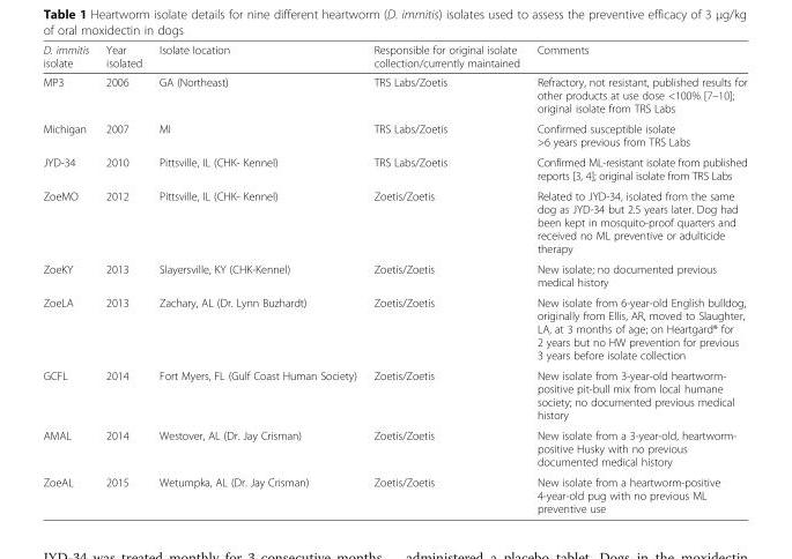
<table><thead><tr><td>D. immitis isolate</td><td>Year isolated</td><td>Isolate location</td><td>Responsible for original isolate collection/currently maintained</td><td>Comments</td></tr></thead><tbody><tr><td>MP3</td><td>2006</td><td>GA (Northeast)</td><td>TRS Labs/Zoetis</td><td>Refractory, not resistant, published results for other products at use dose &lt;100% [7–10]; original isolate from TRS Labs</td></tr><tr><td>Michigan</td><td>2007</td><td>MI</td><td>TRS Labs/Zoetis</td><td>Confirmed susceptible isolate &gt;6 years previous from TRS Labs</td></tr><tr><td>JYD-34</td><td>2010</td><td>Pittsville, IL (CHK- Kennel)</td><td>TRS Labs/Zoetis</td><td>Confirmed ML-resistant isolate from published reports [3, 4]; original isolate from TRS Labs</td></tr><tr><td>ZoeMO</td><td>2012</td><td>Pittsville, IL (CHK- Kennel)</td><td>Zoetis/Zoetis</td><td>Related to JYD-34, isolated from the same dog as JYD-34 but 2.5 years later. Dog had been kept in mosquito-proof quarters and received no ML preventive or adulticide therapy</td></tr><tr><td>ZoeKY</td><td>2013</td><td>Slayersville, KY (CHK-Kennel)</td><td>Zoetis/Zoetis</td><td>New isolate; no documented previous medical history</td></tr><tr><td>ZoeLA</td><td>2013</td><td>Zachary, AL (Dr. Lynn Buzhardt)</td><td>Zoetis/Zoetis</td><td>New isolate from 6-year-old English bulldog, originally from Ellis, AR, moved to Slaughter, LA, at 3 months of age; on Heartgard® for 2 years but no HW prevention for previous 3 years before isolate collection</td></tr><tr><td>GCFL</td><td>2014</td><td>Fort Myers, FL (Gulf Coast Human Society)</td><td>Zoetis/Zoetis</td><td>New isolate from 3-year-old heartworm- positive pit-bull mix from local humane society; no documented previous medical history</td></tr><tr><td>AMAL</td><td>2014</td><td>Westover, AL (Dr. Jay Crisman)</td><td>Zoetis/Zoetis</td><td>New isolate from a 3-year-old, heartworm- positive Husky with no previous documented medical history</td></tr><tr><td>ZoeAL</td><td>2015</td><td>Wetumpka, AL (Dr. Jay Crisman)</td><td>Zoetis/Zoetis</td><td>New isolate from a heartworm-positive 4-year-old pug with no previous ML preventive use</td></tr></tbody></table>